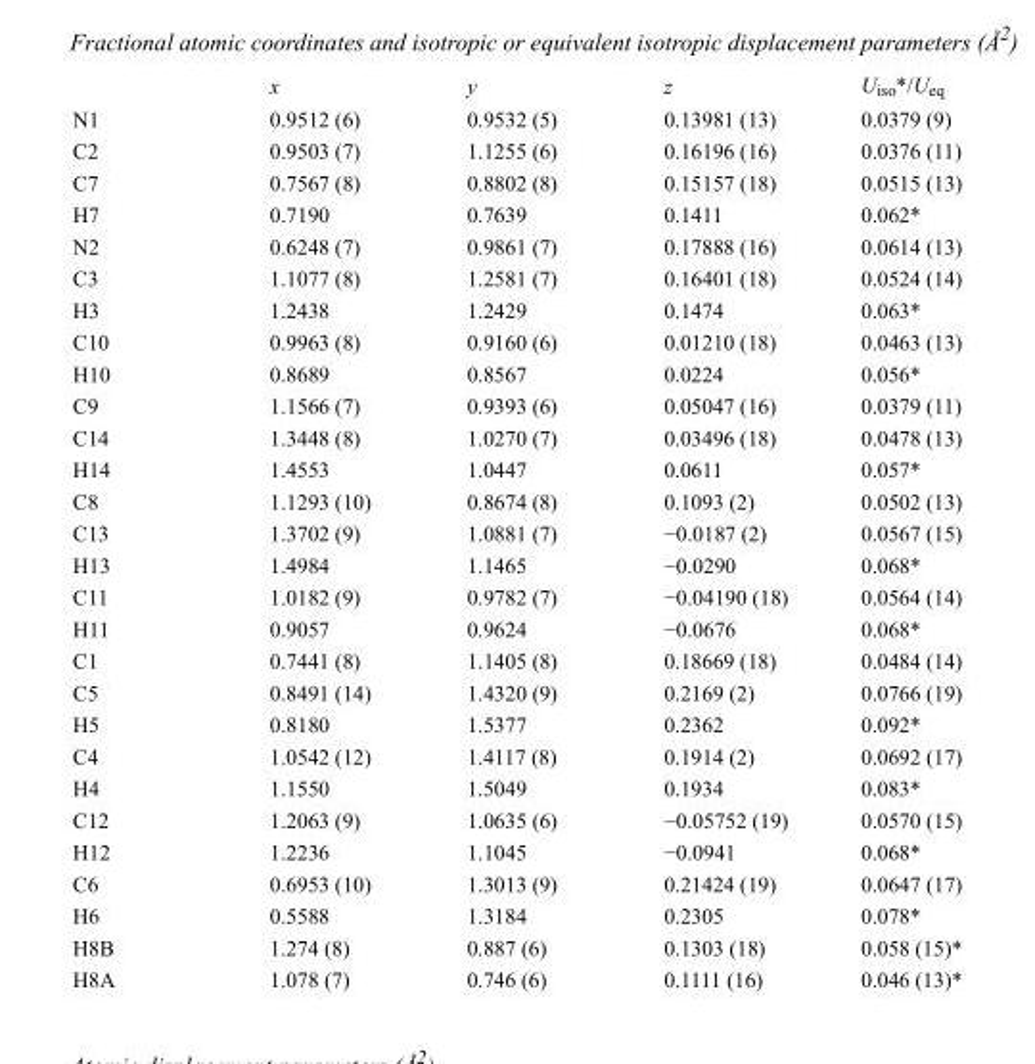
<table><thead><tr><td></td><td>x</td><td>y</td><td>z</td><td>U<sub>iso</sub>*/U<sub>eq</sub></td></tr></thead><tbody><tr><td>N1</td><td>0.9512 (6)</td><td>0.9532 (5)</td><td>0.13981 (13)</td><td>0.0379 (9)</td></tr><tr><td>C2</td><td>0.9503 (7)</td><td>1.1255 (6)</td><td>0.16196 (16)</td><td>0.0376 (11)</td></tr><tr><td>C7</td><td>0.7567 (8)</td><td>0.8802 (8)</td><td>0.15157 (18)</td><td>0.0515 (13)</td></tr><tr><td>H7</td><td>0.7190</td><td>0.7639</td><td>0.1411</td><td>0.062*</td></tr><tr><td>N2</td><td>0.6248 (7)</td><td>0.9861 (7)</td><td>0.17888 (16)</td><td>0.0614 (13)</td></tr><tr><td>C3</td><td>1.1077 (8)</td><td>1.2581 (7)</td><td>0.16401 (18)</td><td>0.0524 (14)</td></tr><tr><td>H3</td><td>1.2438</td><td>1.2429</td><td>0.1474</td><td>0.063*</td></tr><tr><td>C10</td><td>0.9963 (8)</td><td>0.9160 (6)</td><td>0.01210 (18)</td><td>0.0463 (13)</td></tr><tr><td>H10</td><td>0.8689</td><td>0.8567</td><td>0.0224</td><td>0.056*</td></tr><tr><td>C9</td><td>1.1566 (7)</td><td>0.9393 (6)</td><td>0.05047 (16)</td><td>0.0379 (11)</td></tr><tr><td>C14</td><td>1.3448 (8)</td><td>1.0270 (7)</td><td>0.03496 (18)</td><td>0.0478 (13)</td></tr><tr><td>H14</td><td>1.4553</td><td>1.0447</td><td>0.0611</td><td>0.057*</td></tr><tr><td>C8</td><td>1.1293 (10)</td><td>0.8674 (8)</td><td>0.1093 (2)</td><td>0.0502 (13)</td></tr><tr><td>C13</td><td>1.3702 (9)</td><td>1.0881 (7)</td><td>−0.0187 (2)</td><td>0.0567 (15)</td></tr><tr><td>H13</td><td>1.4984</td><td>1.1465</td><td>−0.0290</td><td>0.068*</td></tr><tr><td>C11</td><td>1.0182 (9)</td><td>0.9782 (7)</td><td>−0.04190 (18)</td><td>0.0564 (14)</td></tr><tr><td>H11</td><td>0.9057</td><td>0.9624</td><td>−0.0676</td><td>0.068*</td></tr><tr><td>C1</td><td>0.7441 (8)</td><td>1.1405 (8)</td><td>0.18669 (18)</td><td>0.0484 (14)</td></tr><tr><td>C5</td><td>0.8491 (14)</td><td>1.4320 (9)</td><td>0.2169 (2)</td><td>0.0766 (19)</td></tr><tr><td>H5</td><td>0.8180</td><td>1.5377</td><td>0.2362</td><td>0.092*</td></tr><tr><td>C4</td><td>1.0542 (12)</td><td>1.4117 (8)</td><td>0.1914 (2)</td><td>0.0692 (17)</td></tr><tr><td>H4</td><td>1.1550</td><td>1.5049</td><td>0.1934</td><td>0.083*</td></tr><tr><td>C12</td><td>1.2063 (9)</td><td>1.0635 (6)</td><td>−0.05752 (19)</td><td>0.0570 (15)</td></tr><tr><td>H12</td><td>1.2236</td><td>1.1045</td><td>−0.0941</td><td>0.068*</td></tr><tr><td>C6</td><td>0.6953 (10)</td><td>1.3013 (9)</td><td>0.21424 (19)</td><td>0.0647 (17)</td></tr><tr><td>H6</td><td>0.5588</td><td>1.3184</td><td>0.2305</td><td>0.078*</td></tr><tr><td>H8B</td><td>1.274 (8)</td><td>0.887 (6)</td><td>0.1303 (18)</td><td>0.058 (15)*</td></tr><tr><td>H8A</td><td>1.078 (7)</td><td>0.746 (6)</td><td>0.1111 (16)</td><td>0.046 (13)*</td></tr></tbody></table>